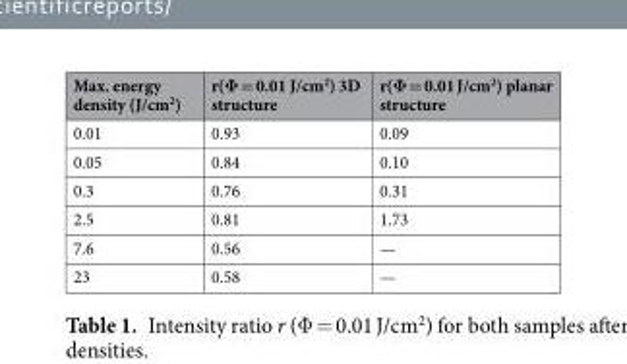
<table><thead><tr><td>Max. energy density (J/cm<sup>2</sup>)</td><td>r(Φ = 0.01 J/cm<sup>2</sup>) 3D structure</td><td>r(Φ = 0.01 J/cm<sup>2</sup>) planar structure</td></tr></thead><tbody><tr><td>0.01</td><td>0.93</td><td>0.09</td></tr><tr><td>0.05</td><td>0.84</td><td>0.10</td></tr><tr><td>0.3</td><td>0.76</td><td>0.31</td></tr><tr><td>2.5</td><td>0.81</td><td>1.73</td></tr><tr><td>7.6</td><td>0.56</td><td>—</td></tr><tr><td>23</td><td>0.58</td><td>—</td></tr></tbody></table>